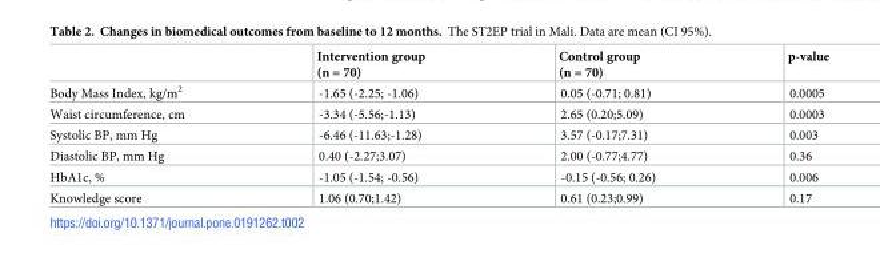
<table><thead><tr><td></td><td>Intervention group (n = 70)</td><td>Control group (n = 70)</td><td>p-value</td></tr></thead><tbody><tr><td>Body Mass Index, kg/m<sup>2</sup></td><td>-1.65 (-2.25; -1.06)</td><td>0.05 (-0.71; 0.81)</td><td>0.0005</td></tr><tr><td>Waist circumference, cm</td><td>-3.34 (-5.56;-1.13)</td><td>2.65 (0.20;5.09)</td><td>0.0003</td></tr><tr><td>Systolic BP, mm Hg</td><td>-6.46 (-11.63;-1.28)</td><td>3.57 (-0.17;7.31)</td><td>0.003</td></tr><tr><td>Diastolic BP, mm Hg</td><td>0.40 (-2.27;3.07)</td><td>2.00 (-0.77;4.77)</td><td>0.36</td></tr><tr><td>HbA1c, %</td><td>-1.05 (-1.54; -0.56)</td><td>-0.15 (-0.56; 0.26)</td><td>0.006</td></tr><tr><td>Knowledge score</td><td>1.06 (0.70;1.42)</td><td>0.61 (0.23;0.99)</td><td>0.17</td></tr></tbody></table>